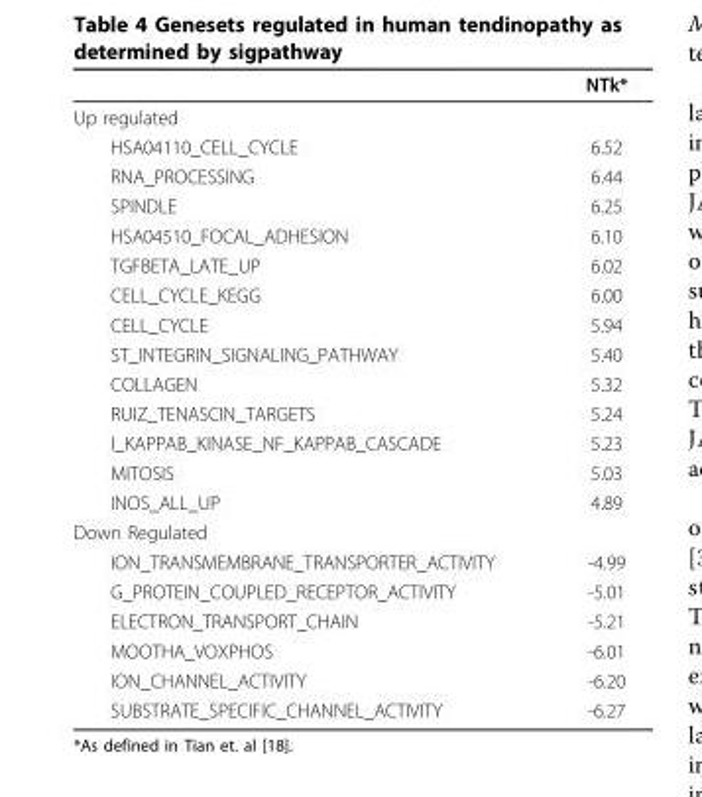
<table><thead><tr><td></td><td>NTk*</td></tr></thead><tbody><tr><td colspan="2">Up regulated</td></tr><tr><td>HSA04110_CELL_CYCLE</td><td>6.52</td></tr><tr><td>RNA_PROCESSING</td><td>6.44</td></tr><tr><td>SPINDLE</td><td>6.25</td></tr><tr><td>HSA04510_FOCAL_ADHESION</td><td>6.10</td></tr><tr><td>TGFBETA_LATE_UP</td><td>6.02</td></tr><tr><td>CELL_CYCLE_KEGG</td><td>6.00</td></tr><tr><td>CELL_CYCLE</td><td>5.94</td></tr><tr><td>ST_INTEGRIN_SIGNALING_PATHWAY</td><td>5.40</td></tr><tr><td>COLLAGEN</td><td>5.32</td></tr><tr><td>RUIZ_TENASCIN_TARGETS</td><td>5.24</td></tr><tr><td>I_KAPPAB_KINASE_NF_KAPPAB_CASCADE</td><td>5.23</td></tr><tr><td>MITOSIS</td><td>5.03</td></tr><tr><td>INOS_ALL_UP</td><td>4.89</td></tr><tr><td colspan="2">Down Regulated</td></tr><tr><td>ION_TRANSMEMBRANE_TRANSPORTER_ACTIVITY</td><td>-4.99</td></tr><tr><td>G_PROTEIN_COUPLED_RECEPTOR_ACTIVITY</td><td>-5.01</td></tr><tr><td>ELECTRON_TRANSPORT_CHAIN</td><td>-5.21</td></tr><tr><td>MOOTHA_VOXPHOS</td><td>-6.01</td></tr><tr><td>ION_CHANNEL_ACTIVITY</td><td>-6.20</td></tr><tr><td>SUBSTRATE_SPECIFIC_CHANNEL_ACTIVITY</td><td>-6.27</td></tr></tbody></table>